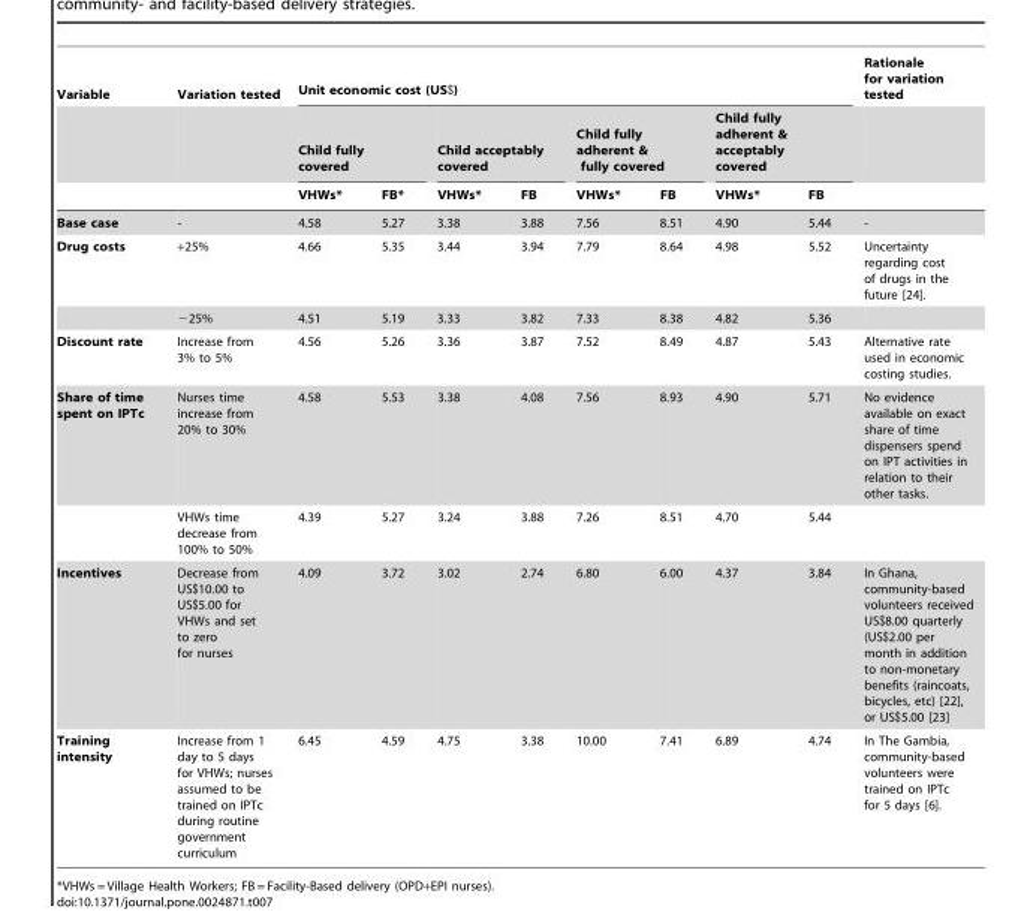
<table><thead><tr><td rowspan="3">Variable</td><td rowspan="3">Variation tested</td><td colspan="8">Unit economic cost (US$)</td><td rowspan="3">Rationale for variation tested</td></tr><tr><td colspan="2">Child fully covered</td><td colspan="2">Child acceptably covered</td><td colspan="2">Child fully adherent &amp; fully covered</td><td colspan="2">Child fully adherent &amp; acceptably covered</td></tr><tr><td>VHWs*</td><td>FB*</td><td>VHWs*</td><td>FB</td><td>VHWs*</td><td>FB</td><td>VHWs*</td><td>FB</td></tr></thead><tbody><tr><td>Base case</td><td>-</td><td>4.58</td><td>5.27</td><td>3.38</td><td>3.88</td><td>7.56</td><td>8.51</td><td>4.90</td><td>5.44</td><td>-</td></tr><tr><td rowspan="2">Drug costs</td><td>+25%</td><td>4.66</td><td>5.35</td><td>3.44</td><td>3.94</td><td>7.79</td><td>8.64</td><td>4.98</td><td>5.52</td><td>Uncertainty regarding cost of drugs in the future [24].</td></tr><tr><td>−25%</td><td>4.51</td><td>5.19</td><td>3.33</td><td>3.82</td><td>7.33</td><td>8.38</td><td>4.82</td><td>5.36</td><td></td></tr><tr><td>Discount rate</td><td>Increase from 3% to 5%</td><td>4.56</td><td>5.26</td><td>3.36</td><td>3.87</td><td>7.52</td><td>8.49</td><td>4.87</td><td>5.43</td><td>Alternative rate used in economic costing studies.</td></tr><tr><td rowspan="2">Share of time spent on IPTc</td><td>Nurses time increase from 20% to 30%</td><td>4.58</td><td>5.53</td><td>3.38</td><td>4.08</td><td>7.56</td><td>8.93</td><td>4.90</td><td>5.71</td><td>No evidence available on exact share of time dispensers spend on IPT activities in relation to their other tasks.</td></tr><tr><td>VHWs time decrease from 100% to 50%</td><td>4.39</td><td>5.27</td><td>3.24</td><td>3.88</td><td>7.26</td><td>8.51</td><td>4.70</td><td>5.44</td><td></td></tr><tr><td>Incentives</td><td>Decrease from US$10.00 to US$5.00 for VHWs and set to zero for nurses</td><td>4.09</td><td>3.72</td><td>3.02</td><td>2.74</td><td>6.80</td><td>6.00</td><td>4.37</td><td>3.84</td><td>In Ghana, community-based volunteers received US$8.00 quarterly (US$2.00 per month in addition to non-monetary benefits (raincoats, bicycles, etc) [22], or US$5.00 [23]</td></tr><tr><td>Training intensity</td><td>Increase from 1 day to 5 days for VHWs; nurses assumed to be trained on IPTc during routine government curriculum</td><td>6.45</td><td>4.59</td><td>4.75</td><td>3.38</td><td>10.00</td><td>7.41</td><td>6.89</td><td>4.74</td><td>In The Gambia, community-based volunteers were trained on IPTc for 5 days [6].</td></tr></tbody></table>